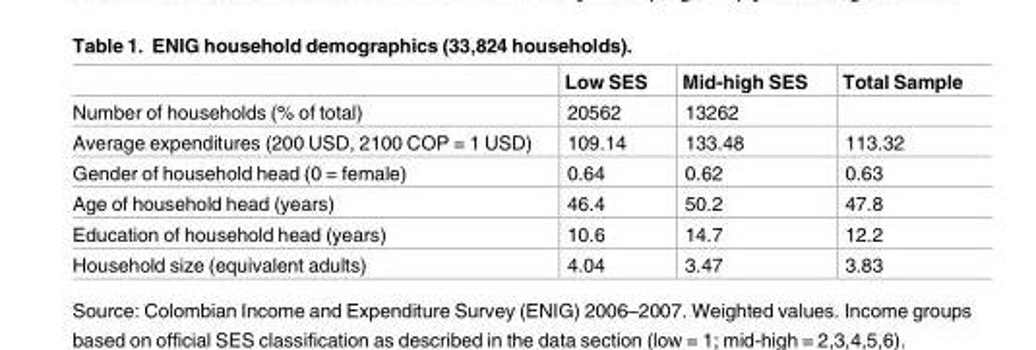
<table><thead><tr><td></td><td>Low SES</td><td>Mid-high SES</td><td>Total Sample</td></tr></thead><tbody><tr><td>Number of households (% of total)</td><td>20562</td><td>13262</td><td></td></tr><tr><td>Average expenditures (200 USD, 2100 COP = 1 USD)</td><td>109.14</td><td>133.48</td><td>113.32</td></tr><tr><td>Gender of household head (0 = female)</td><td>0.64</td><td>0.62</td><td>0.63</td></tr><tr><td>Age of household head (years)</td><td>46.4</td><td>50.2</td><td>47.8</td></tr><tr><td>Education of household head (years)</td><td>10.6</td><td>14.7</td><td>12.2</td></tr><tr><td>Household size (equivalent adults)</td><td>4.04</td><td>3.47</td><td>3.83</td></tr></tbody></table>